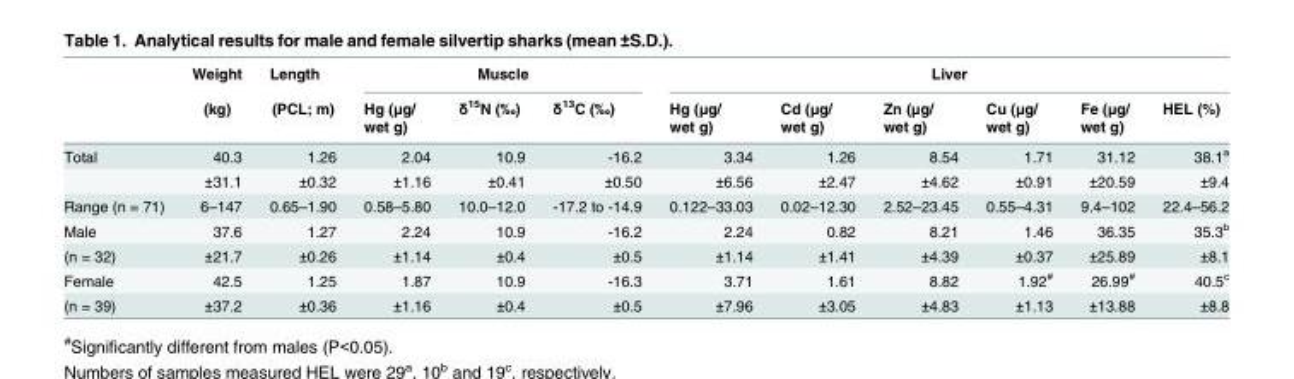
<table><thead><tr><td rowspan="2"></td><td rowspan="2">Weight (kg)</td><td rowspan="2">Length (PCL; m)</td><td colspan="3">Muscle</td><td colspan="6">Liver</td></tr><tr><td>Hg (μg/ wet g)</td><td>δ<sup>15</sup>N (‰)</td><td>δ<sup>13</sup>C (‰)</td><td>Hg (μg/ wet g)</td><td>Cd (μg/ wet g)</td><td>Zn (μg/ wet g)</td><td>Cu (μg/ wet g)</td><td>Fe (μg/ wet g)</td><td>HEL (%)</td></tr></thead><tbody><tr><td rowspan="2">Total</td><td>40.3</td><td>1.26</td><td>2.04</td><td>10.9</td><td>-16.2</td><td>3.34</td><td>1.26</td><td>8.54</td><td>1.71</td><td>31.12</td><td>38.1<sup>a</sup></td></tr><tr><td>±31.1</td><td>±0.32</td><td>±1.16</td><td>±0.41</td><td>±0.50</td><td>±6.56</td><td>±2.47</td><td>±4.62</td><td>±0.91</td><td>±20.59</td><td>±9.4</td></tr><tr><td>Range (n = 71)</td><td>6–147</td><td>0.65–1.90</td><td>0.58–5.80</td><td>10.0–12.0</td><td>-17.2 to -14.9</td><td>0.122–33.03</td><td>0.02–12.30</td><td>2.52–23.45</td><td>0.55–4.31</td><td>9.4–102</td><td>22.4–56.2</td></tr><tr><td>Male</td><td>37.6</td><td>1.27</td><td>2.24</td><td>10.9</td><td>-16.2</td><td>2.24</td><td>0.82</td><td>8.21</td><td>1.46</td><td>36.35</td><td>35.3<sup>b</sup></td></tr><tr><td>(n = 32)</td><td>±21.7</td><td>±0.26</td><td>±1.14</td><td>±0.4</td><td>±0.5</td><td>±1.14</td><td>±1.41</td><td>±4.39</td><td>±0.37</td><td>±25.89</td><td>±8.1</td></tr><tr><td>Female</td><td>42.5</td><td>1.25</td><td>1.87</td><td>10.9</td><td>-16.3</td><td>3.71</td><td>1.61</td><td>8.82</td><td>1.92<sup>#</sup></td><td>26.99<sup>#</sup></td><td>40.5<sup>c</sup></td></tr><tr><td>(n = 39)</td><td>±37.2</td><td>±0.36</td><td>±1.16</td><td>±0.4</td><td>±0.5</td><td>±7.96</td><td>±3.05</td><td>±4.83</td><td>±1.13</td><td>±13.88</td><td>±8.8</td></tr></tbody></table>